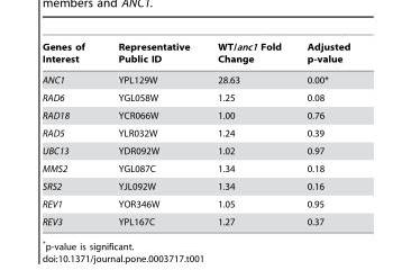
<table><thead><tr><td>Genes of Interest</td><td>Representative Public ID</td><td>WT/anc1 Fold Change</td><td>Adjusted p-value</td></tr></thead><tbody><tr><td>ANC1</td><td>YPL129W</td><td>28.63</td><td>0.00*</td></tr><tr><td>RAD6</td><td>YGL058W</td><td>1.25</td><td>0.08</td></tr><tr><td>RAD18</td><td>YCR066W</td><td>1.00</td><td>0.76</td></tr><tr><td>RAD5</td><td>YLR032W</td><td>1.24</td><td>0.39</td></tr><tr><td>UBC13</td><td>YDR092W</td><td>1.02</td><td>0.97</td></tr><tr><td>MMS2</td><td>YGL087C</td><td>1.34</td><td>0.18</td></tr><tr><td>SRS2</td><td>YJL092W</td><td>1.34</td><td>0.16</td></tr><tr><td>REV1</td><td>YOR346W</td><td>1.05</td><td>0.95</td></tr><tr><td>REV3</td><td>YPL167C</td><td>1.27</td><td>0.37</td></tr></tbody></table>